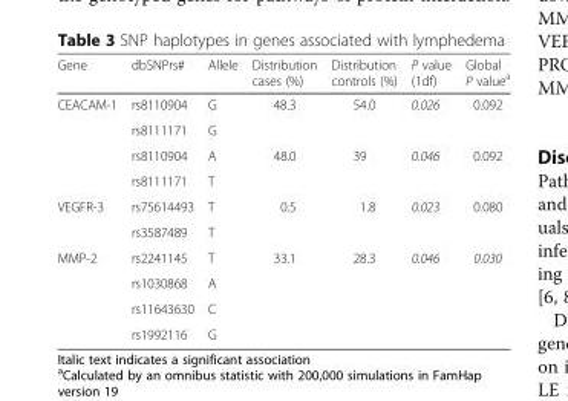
<table><thead><tr><td>Gene</td><td>dbSNPrs#</td><td>Allele</td><td>Distribution cases (%)</td><td>Distribution controls (%)</td><td>P value (1df)</td><td>Global P value<sup>a</sup></td></tr></thead><tbody><tr><td rowspan="4">CEACAM-1</td><td>rs8110904</td><td>G</td><td rowspan="2">48.3</td><td rowspan="2">54.0</td><td rowspan="2">0.026</td><td rowspan="2">0.092</td></tr><tr><td>rs8111171</td><td>G</td></tr><tr><td>rs8110904</td><td>A</td><td rowspan="2">48.0</td><td rowspan="2">39</td><td rowspan="2">0.046</td><td rowspan="2">0.092</td></tr><tr><td>rs8111171</td><td>T</td></tr><tr><td rowspan="2">VEGFR-3</td><td>rs75614493</td><td>T</td><td rowspan="2">0.5</td><td rowspan="2">1.8</td><td rowspan="2">0.023</td><td rowspan="2">0.080</td></tr><tr><td>rs3587489</td><td>T</td></tr><tr><td rowspan="4">MMP-2</td><td>rs2241145</td><td>T</td><td rowspan="4">33.1</td><td rowspan="4">28.3</td><td rowspan="4">0.046</td><td rowspan="4">0.030</td></tr><tr><td>rs1030868</td><td>A</td></tr><tr><td>rs11643630</td><td>C</td></tr><tr><td>rs1992116</td><td>G</td></tr></tbody></table>